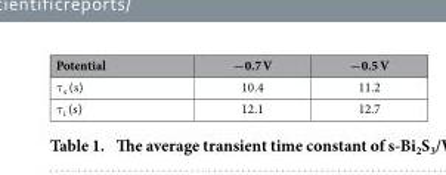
<table><thead><tr><td>Potential</td><td>−0.7 V</td><td>−0.5 V</td></tr></thead><tbody><tr><td>τ <sub>s</sub> (s)</td><td>10.4</td><td>11.2</td></tr><tr><td>τ <sub>i</sub> (s)</td><td>12.1</td><td>12.7</td></tr></tbody></table>